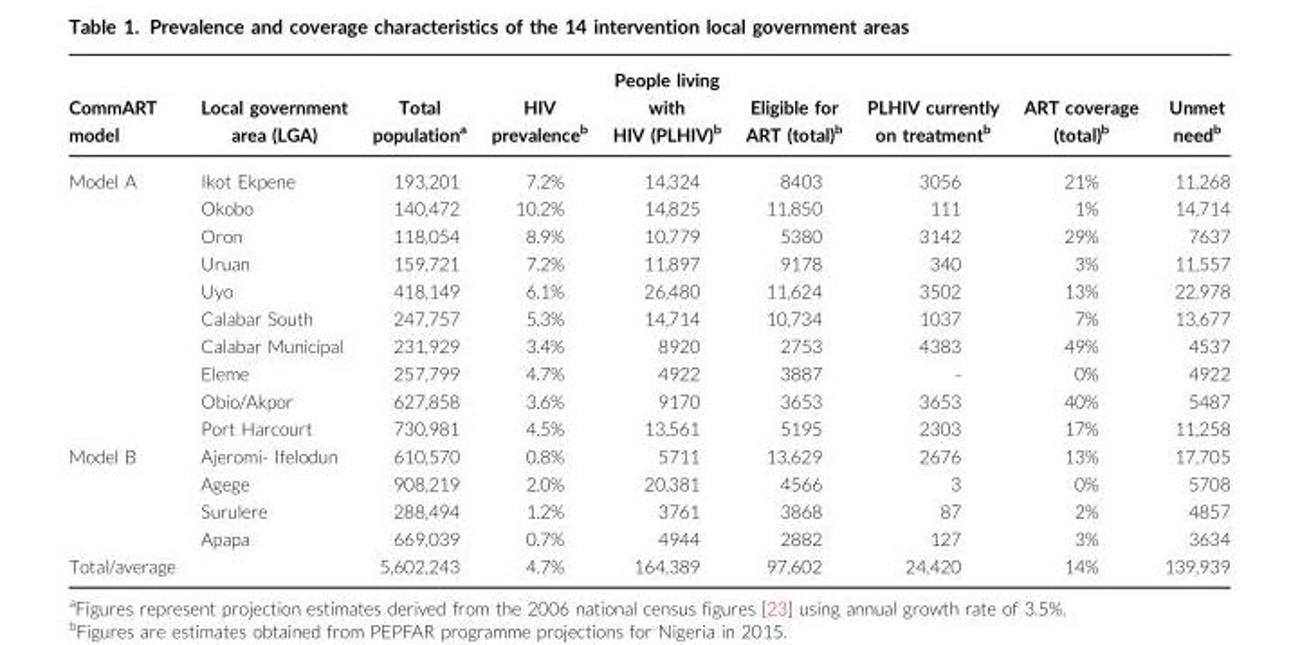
<table><thead><tr><td>CommART model</td><td>Local government area (LGA)</td><td>Total population<sup>a</sup></td><td>HIV prevalence<sup>b</sup></td><td>People living with HIV (PLHIV)<sup>b</sup></td><td>Eligible for ART (total)<sup>b</sup></td><td>PLHIV currently on treatment<sup>b</sup></td><td>ART coverage (total)<sup>b</sup></td><td>Unmet need<sup>b</sup></td></tr></thead><tbody><tr><td rowspan="10">Model A</td><td>Ikot Ekpene</td><td>193,201</td><td>7.2%</td><td>14,324</td><td>8403</td><td>3056</td><td>21%</td><td>11,268</td></tr><tr><td>Okobo</td><td>140,472</td><td>10.2%</td><td>14,825</td><td>11,850</td><td>111</td><td>1%</td><td>14,714</td></tr><tr><td>Oron</td><td>118,054</td><td>8.9%</td><td>10,779</td><td>5380</td><td>3142</td><td>29%</td><td>7637</td></tr><tr><td>Uruan</td><td>159,721</td><td>7.2%</td><td>11,897</td><td>9178</td><td>340</td><td>3%</td><td>11,557</td></tr><tr><td>Uyo</td><td>418,149</td><td>6.1%</td><td>26,480</td><td>11,624</td><td>3502</td><td>13%</td><td>22,978</td></tr><tr><td>Calabar South</td><td>247,757</td><td>5.3%</td><td>14,714</td><td>10,734</td><td>1037</td><td>7%</td><td>13,677</td></tr><tr><td>Calabar Municipal</td><td>231,929</td><td>3.4%</td><td>8920</td><td>2753</td><td>4383</td><td>49%</td><td>4537</td></tr><tr><td>Eleme</td><td>257,799</td><td>4.7%</td><td>4922</td><td>3887</td><td>-</td><td>0%</td><td>4922</td></tr><tr><td>Obio/Akpor</td><td>627,858</td><td>3.6%</td><td>9170</td><td>3653</td><td>3653</td><td>40%</td><td>5487</td></tr><tr><td>Port Harcourt</td><td>730,981</td><td>4.5%</td><td>13,561</td><td>5195</td><td>2303</td><td>17%</td><td>11,258</td></tr><tr><td rowspan="4">Model B</td><td>Ajeromi- Ifelodun</td><td>610,570</td><td>0.8%</td><td>5711</td><td>13,629</td><td>2676</td><td>13%</td><td>17,705</td></tr><tr><td>Agege</td><td>908,219</td><td>2.0%</td><td>20,381</td><td>4566</td><td>3</td><td>0%</td><td>5708</td></tr><tr><td>Surulere</td><td>288,494</td><td>1.2%</td><td>3761</td><td>3868</td><td>87</td><td>2%</td><td>4857</td></tr><tr><td>Apapa</td><td>669,039</td><td>0.7%</td><td>4944</td><td>2882</td><td>127</td><td>3%</td><td>3634</td></tr><tr><td>Total/average</td><td></td><td>5,602,243</td><td>4.7%</td><td>164,389</td><td>97,602</td><td>24,420</td><td>14%</td><td>139,939</td></tr></tbody></table>